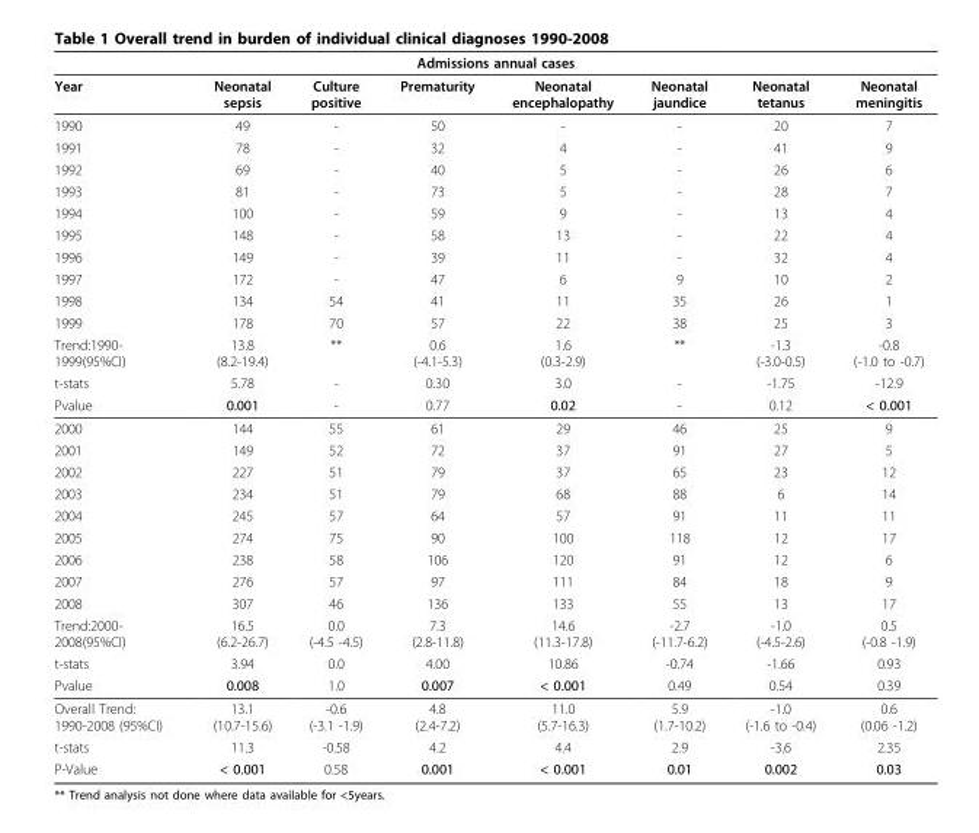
<table><thead><tr><td colspan="8">Admissions annual cases</td></tr><tr><td>Year</td><td>Neonatal sepsis</td><td>Culture positive</td><td>Prematurity</td><td>Neonatal encephalopathy</td><td>Neonatal jaundice</td><td>Neonatal tetanus</td><td>Neonatal meningitis</td></tr></thead><tbody><tr><td>1990</td><td>49</td><td>-</td><td>50</td><td>-</td><td>-</td><td>20</td><td>7</td></tr><tr><td>1991</td><td>78</td><td>-</td><td>32</td><td>4</td><td>-</td><td>41</td><td>9</td></tr><tr><td>1992</td><td>69</td><td>-</td><td>40</td><td>5</td><td>-</td><td>26</td><td>6</td></tr><tr><td>1993</td><td>81</td><td>-</td><td>73</td><td>5</td><td>-</td><td>28</td><td>7</td></tr><tr><td>1994</td><td>100</td><td>-</td><td>59</td><td>9</td><td>-</td><td>13</td><td>4</td></tr><tr><td>1995</td><td>148</td><td>-</td><td>58</td><td>13</td><td>-</td><td>22</td><td>4</td></tr><tr><td>1996</td><td>149</td><td>-</td><td>39</td><td>11</td><td>-</td><td>32</td><td>4</td></tr><tr><td>1997</td><td>172</td><td>-</td><td>47</td><td>6</td><td>9</td><td>10</td><td>2</td></tr><tr><td>1998</td><td>134</td><td>54</td><td>41</td><td>11</td><td>35</td><td>26</td><td>1</td></tr><tr><td>1999</td><td>178</td><td>70</td><td>57</td><td>22</td><td>38</td><td>25</td><td>3</td></tr><tr><td>Trend:1990- 1999(95%CI)</td><td>13.8 (8.2-19.4)</td><td>**</td><td>0.6 (-4.1-5.3)</td><td>1.6 (0.3-2.9)</td><td>**</td><td>-1.3 (-3.0-0.5)</td><td>-0.8 (-1.0 to -0.7)</td></tr><tr><td>t-stats</td><td>5.78</td><td>-</td><td>0.30</td><td>3.0</td><td>-</td><td>-1.75</td><td>-12.9</td></tr><tr><td>Pvalue</td><td>0.001</td><td>-</td><td>0.77</td><td>0.02</td><td>-</td><td>0.12</td><td>&lt; 0.001</td></tr><tr><td>2000</td><td>144</td><td>55</td><td>61</td><td>29</td><td>46</td><td>25</td><td>9</td></tr><tr><td>2001</td><td>149</td><td>52</td><td>72</td><td>37</td><td>91</td><td>27</td><td>5</td></tr><tr><td>2002</td><td>227</td><td>51</td><td>79</td><td>37</td><td>65</td><td>23</td><td>12</td></tr><tr><td>2003</td><td>234</td><td>51</td><td>79</td><td>68</td><td>88</td><td>6</td><td>14</td></tr><tr><td>2004</td><td>245</td><td>57</td><td>64</td><td>57</td><td>91</td><td>11</td><td>11</td></tr><tr><td>2005</td><td>274</td><td>75</td><td>90</td><td>100</td><td>118</td><td>12</td><td>17</td></tr><tr><td>2006</td><td>238</td><td>58</td><td>106</td><td>120</td><td>91</td><td>12</td><td>6</td></tr><tr><td>2007</td><td>276</td><td>57</td><td>97</td><td>111</td><td>84</td><td>18</td><td>9</td></tr><tr><td>2008</td><td>307</td><td>46</td><td>136</td><td>133</td><td>55</td><td>13</td><td>17</td></tr><tr><td>Trend:2000- 2008(95%CI)</td><td>16.5 (6.2-26.7)</td><td>0.0 (-4.5 -4.5)</td><td>7.3 (2.8-11.8)</td><td>14.6 (11.3-17.8)</td><td>-2.7 (-11.7-6.2)</td><td>-1.0 (-4.5-2.6)</td><td>0.5 (-0.8 -1.9)</td></tr><tr><td>t-stats</td><td>3.94</td><td>0.0</td><td>4.00</td><td>10.86</td><td>-0.74</td><td>-1.66</td><td>0.93</td></tr><tr><td>Pvalue</td><td>0.008</td><td>1.0</td><td>0.007</td><td>&lt; 0.001</td><td>0.49</td><td>0.54</td><td>0.39</td></tr><tr><td>Overall Trend: 1990-2008 (95%CI)</td><td>13.1 (10.7-15.6)</td><td>-0.6 (-3.1 -1.9)</td><td>4.8 (2.4-7.2)</td><td>11.0 (5.7-16.3)</td><td>5.9 (1.7-10.2)</td><td>-1.0 (-1.6 to -0.4)</td><td>0.6 (0.06 -1.2)</td></tr><tr><td>t-stats</td><td>11.3</td><td>-0.58</td><td>4.2</td><td>4.4</td><td>2.9</td><td>-3.6</td><td>2.35</td></tr><tr><td>P-Value</td><td>&lt; 0.001</td><td>0.58</td><td>0.001</td><td>&lt; 0.001</td><td>0.01</td><td>0.002</td><td>0.03</td></tr></tbody></table>